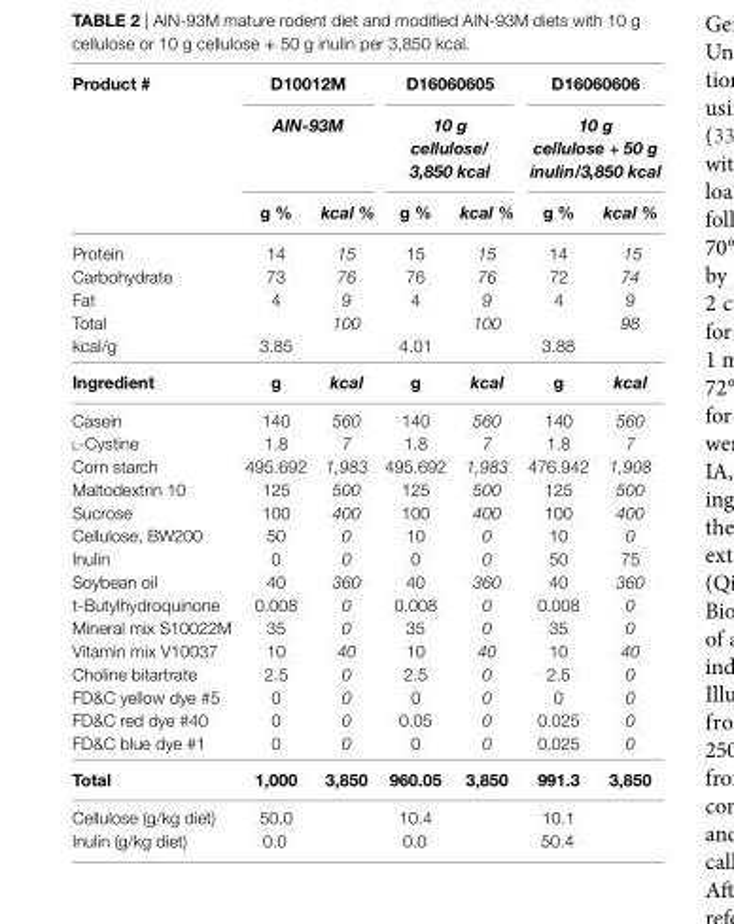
<table><thead><tr><td rowspan="3">Product #</td><td rowspan="2" colspan="2">D10012M AIN-93M</td><td rowspan="2" colspan="2">D16060605 10 g cellulose/ 3,850 kcal</td><td rowspan="2" colspan="2">D16060606 10 g cellulose + 50 g inulin/3,850 kcal</td></tr><tr></tr><tr><td>g %</td><td>kcal %</td><td>g %</td><td>kcal %</td><td>g %</td><td>kcal %</td></tr></thead><tbody><tr><td>Protein</td><td>14</td><td>15</td><td>15</td><td>15</td><td>14</td><td>15</td></tr><tr><td>Carbohydrate</td><td>73</td><td>76</td><td>76</td><td>76</td><td>72</td><td>74</td></tr><tr><td>Fat</td><td>4</td><td>9</td><td>4</td><td>9</td><td>4</td><td>9</td></tr><tr><td>Total</td><td></td><td>100</td><td></td><td>100</td><td></td><td>98</td></tr><tr><td>kcal/g</td><td>3.85</td><td></td><td>4.01</td><td></td><td>3.88</td><td></td></tr><tr><td>ingredient</td><td>g</td><td>kcal</td><td>g</td><td>kcal</td><td>g</td><td>kcal</td></tr><tr><td>Casein</td><td>140</td><td>560</td><td>140</td><td>560</td><td>140</td><td>560</td></tr><tr><td>l-Cystine</td><td>1.8</td><td>7</td><td>1.8</td><td>7</td><td>1.8</td><td>7</td></tr><tr><td>Corn starch</td><td>495.692</td><td>1,983</td><td>495.692</td><td>1,983</td><td>476.942</td><td>1,908</td></tr><tr><td>Maltodextrin 10</td><td>125</td><td>500</td><td>125</td><td>500</td><td>125</td><td>500</td></tr><tr><td>Sucrose</td><td>100</td><td>400</td><td>100</td><td>400</td><td>100</td><td>400</td></tr><tr><td>Cellulose, BW200</td><td>50</td><td>0</td><td>10</td><td>0</td><td>10</td><td>0</td></tr><tr><td>Inulin</td><td>0</td><td>0</td><td>0</td><td>0</td><td>50</td><td>75</td></tr><tr><td>Soybean oil</td><td>40</td><td>360</td><td>40</td><td>360</td><td>40</td><td>360</td></tr><tr><td>t-Butylhydroquinone</td><td>0.008</td><td>0</td><td>0.008</td><td>0</td><td>0.008</td><td>0</td></tr><tr><td>Mineral mix S10022M</td><td>35</td><td>0</td><td>35</td><td>0</td><td>35</td><td>0</td></tr><tr><td>Vitamin mix V10037</td><td>10</td><td>40</td><td>10</td><td>40</td><td>10</td><td>40</td></tr><tr><td>Choline bitartrate</td><td>2.5</td><td>0</td><td>2.5</td><td>0</td><td>2.5</td><td>0</td></tr><tr><td>FD&amp;C yellow dye #5</td><td>0</td><td>0</td><td>0</td><td>0</td><td>0</td><td>0</td></tr><tr><td>FD&amp;C red dye #40</td><td>0</td><td>0</td><td>0.05</td><td>0</td><td>0.025</td><td>0</td></tr><tr><td>FD&amp;C blue dye #1</td><td>0</td><td>0</td><td>0</td><td>0</td><td>0.025</td><td>0</td></tr><tr><td>Total</td><td>1,000</td><td>3,850</td><td>960.05</td><td>3,850</td><td>991.3</td><td>3,850</td></tr><tr><td>Cellulose (g/kg diet)</td><td>50.0</td><td></td><td>10.4</td><td></td><td>10.1</td><td></td></tr><tr><td>Inulin (g/kg diet)</td><td>0.0</td><td></td><td>0.0</td><td></td><td>50.4</td><td></td></tr></tbody></table>